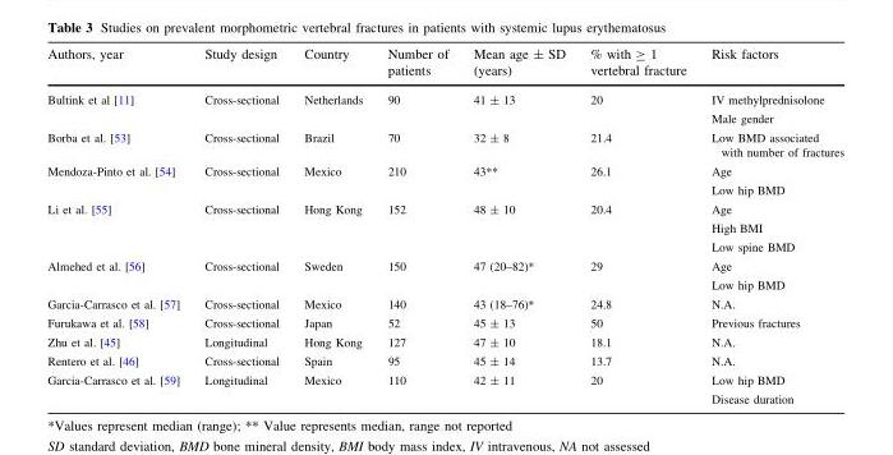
<table><thead><tr><td>Authors, year</td><td>Study design</td><td>Country</td><td>Number of patients</td><td>Mean age ± SD (years)</td><td>% with ≥ 1 vertebral fracture</td><td>Risk factors</td></tr></thead><tbody><tr><td>Bultink et al [11]</td><td>Cross-sectional</td><td>Netherlands</td><td>90</td><td>41 ± 13</td><td>20</td><td>IV methylprednisolone Male gender</td></tr><tr><td>Borba et al. [53]</td><td>Cross-sectional</td><td>Brazil</td><td>70</td><td>32 ± 8</td><td>21.4</td><td>Low BMD associated with number of fractures</td></tr><tr><td>Mendoza-Pinto et al. [54]</td><td>Cross-sectional</td><td>Mexico</td><td>210</td><td>43**</td><td>26.1</td><td>Age Low hip BMD</td></tr><tr><td>Li et al. [55]</td><td>Cross-sectional</td><td>Hong Kong</td><td>152</td><td>48 ± 10</td><td>20.4</td><td>Age High BMI Low spine BMD</td></tr><tr><td>Almehed et al. [56]</td><td>Cross-sectional</td><td>Sweden</td><td>150</td><td>47 (20–82)*</td><td>29</td><td>Age Low hip BMD</td></tr><tr><td>Garcia-Carrasco et al. [57]</td><td>Cross-sectional</td><td>Mexico</td><td>140</td><td>43 (18–76)*</td><td>24.8</td><td>N.A.</td></tr><tr><td>Furukawa et al. [58]</td><td>Cross-sectional</td><td>Japan</td><td>52</td><td>45 ± 13</td><td>50</td><td>Previous fractures</td></tr><tr><td>Zhu et al. [45]</td><td>Longitudinal</td><td>Hong Kong</td><td>127</td><td>47 ± 10</td><td>18.1</td><td>N.A.</td></tr><tr><td>Rentero et al. [46]</td><td>Cross-sectional</td><td>Spain</td><td>95</td><td>45 ± 14</td><td>13.7</td><td>N.A.</td></tr><tr><td>Garcia-Carrasco et al. [59]</td><td>Longitudinal</td><td>Mexico</td><td>110</td><td>42 ± 11</td><td>20</td><td>Low hip BMD Disease duration</td></tr></tbody></table>